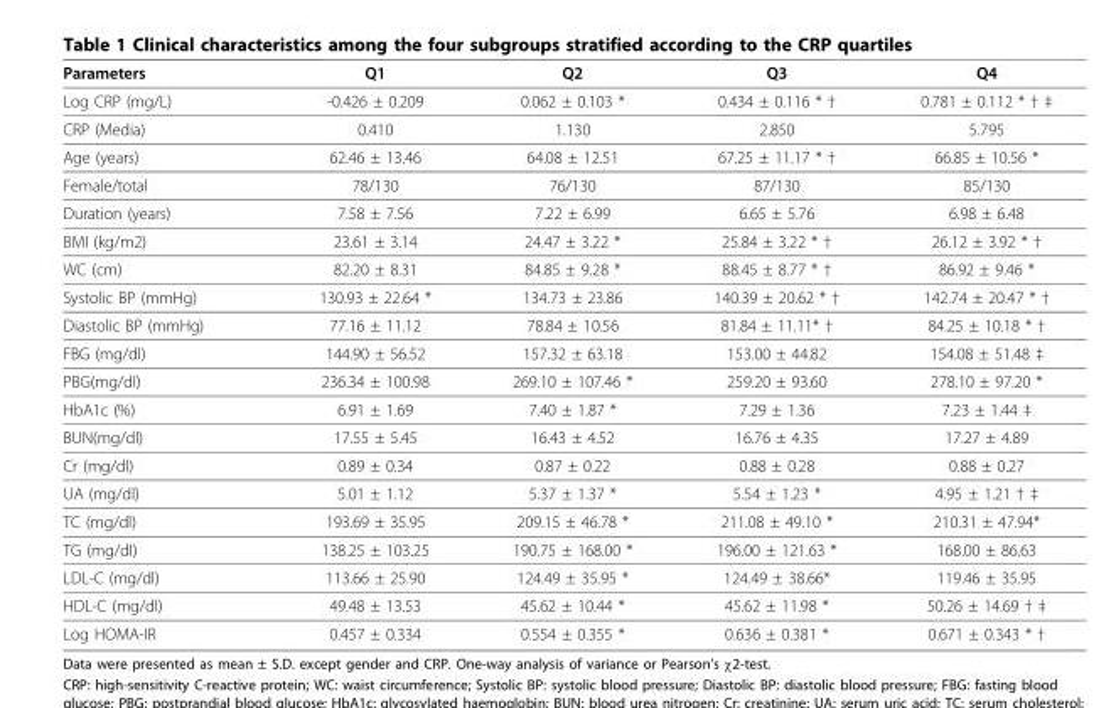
<table><thead><tr><td>Parameters</td><td>Q1</td><td>Q2</td><td>Q3</td><td>Q4</td></tr></thead><tbody><tr><td>Log CRP (mg/L)</td><td>-0.426 ± 0.209</td><td>0.062 ± 0.103 *</td><td>0.434 ± 0.116 * †</td><td>0.781 ± 0.112 * † ‡</td></tr><tr><td>CRP (Media)</td><td>0.410</td><td>1.130</td><td>2.850</td><td>5.795</td></tr><tr><td>Age (years)</td><td>62.46 ± 13.46</td><td>64.08 ± 12.51</td><td>67.25 ± 11.17 * †</td><td>66.85 ± 10.56 *</td></tr><tr><td>Female/total</td><td>78/130</td><td>76/130</td><td>87/130</td><td>85/130</td></tr><tr><td>Duration (years)</td><td>7.58 ± 7.56</td><td>7.22 ± 6.99</td><td>6.65 ± 5.76</td><td>6.98 ± 6.48</td></tr><tr><td>BMI (kg/m2)</td><td>23.61 ± 3.14</td><td>24.47 ± 3.22 *</td><td>25.84 ± 3.22 * †</td><td>26.12 ± 3.92 * †</td></tr><tr><td>WC (cm)</td><td>82.20 ± 8.31</td><td>84.85 ± 9.28 *</td><td>88.45 ± 8.77 * †</td><td>86.92 ± 9.46 *</td></tr><tr><td>Systolic BP (mmHg)</td><td>130.93 ± 22.64 *</td><td>134.73 ± 23.86</td><td>140.39 ± 20.62 * †</td><td>142.74 ± 20.47 * †</td></tr><tr><td>Diastolic BP (mmHg)</td><td>77.16 ± 11.12</td><td>78.84 ± 10.56</td><td>81.84 ± 11.11* †</td><td>84.25 ± 10.18 * †</td></tr><tr><td>FBG (mg/dl)</td><td>144.90 ± 56.52</td><td>157.32 ± 63.18</td><td>153.00 ± 44.82</td><td>154.08 ± 51.48 ‡</td></tr><tr><td>PBG(mg/dl)</td><td>236.34 ± 100.98</td><td>269.10 ± 107.46 *</td><td>259.20 ± 93.60</td><td>278.10 ± 97.20 *</td></tr><tr><td>HbA1c (%)</td><td>6.91 ± 1.69</td><td>7.40 ± 1.87 *</td><td>7.29 ± 1.36</td><td>7.23 ± 1.44 ‡</td></tr><tr><td>BUN(mg/dl)</td><td>17.55 ± 5.45</td><td>16.43 ± 4.52</td><td>16.76 ± 4.35</td><td>17.27 ± 4.89</td></tr><tr><td>Cr (mg/dl)</td><td>0.89 ± 0.34</td><td>0.87 ± 0.22</td><td>0.88 ± 0.28</td><td>0.88 ± 0.27</td></tr><tr><td>UA (mg/dl)</td><td>5.01 ± 1.12</td><td>5.37 ± 1.37 *</td><td>5.54 ± 1.23 *</td><td>4.95 ± 1.21 † ‡</td></tr><tr><td>TC (mg/dl)</td><td>193.69 ± 35.95</td><td>209.15 ± 46.78 *</td><td>211.08 ± 49.10 *</td><td>210.31 ± 47.94*</td></tr><tr><td>TG (mg/dl)</td><td>138.25 ± 103.25</td><td>190.75 ± 168.00 *</td><td>196.00 ± 121.63 *</td><td>168.00 ± 86.63</td></tr><tr><td>LDL-C (mg/dl)</td><td>113.66 ± 25.90</td><td>124.49 ± 35.95 *</td><td>124.49 ± 38.66*</td><td>119.46 ± 35.95</td></tr><tr><td>HDL-C (mg/dl)</td><td>49.48 ± 13.53</td><td>45.62 ± 10.44 *</td><td>45.62 ± 11.98 *</td><td>50.26 ± 14.69 † ‡</td></tr><tr><td>Log HOMA-IR</td><td>0.457 ± 0.334</td><td>0.554 ± 0.355 *</td><td>0.636 ± 0.381 *</td><td>0.671 ± 0.343 * †</td></tr></tbody></table>